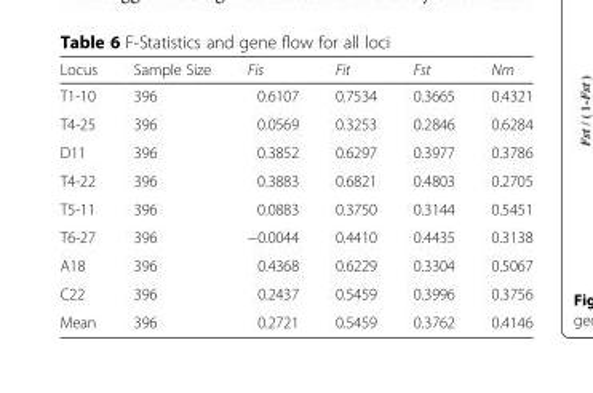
<table><thead><tr><td>Locus</td><td>Sample Size</td><td>Fis</td><td>Fit</td><td>Fst</td><td>Nm</td></tr></thead><tbody><tr><td>T1-10</td><td>396</td><td>0.6107</td><td>0.7534</td><td>0.3665</td><td>0.4321</td></tr><tr><td>T4-25</td><td>396</td><td>0.0569</td><td>0.3253</td><td>0.2846</td><td>0.6284</td></tr><tr><td>D11</td><td>396</td><td>0.3852</td><td>0.6297</td><td>0.3977</td><td>0.3786</td></tr><tr><td>T4-22</td><td>396</td><td>0.3883</td><td>0.6821</td><td>0.4803</td><td>0.2705</td></tr><tr><td>T5-11</td><td>396</td><td>0.0883</td><td>0.3750</td><td>0.3144</td><td>0.5451</td></tr><tr><td>T6-27</td><td>396</td><td>−0.0044</td><td>0.4410</td><td>0.4435</td><td>0.3138</td></tr><tr><td>A18</td><td>396</td><td>0.4368</td><td>0.6229</td><td>0.3304</td><td>0.5067</td></tr><tr><td>C22</td><td>396</td><td>0.2437</td><td>0.5459</td><td>0.3996</td><td>0.3756</td></tr><tr><td>Mean</td><td>396</td><td>0.2721</td><td>0.5459</td><td>0.3762</td><td>0.4146</td></tr></tbody></table>